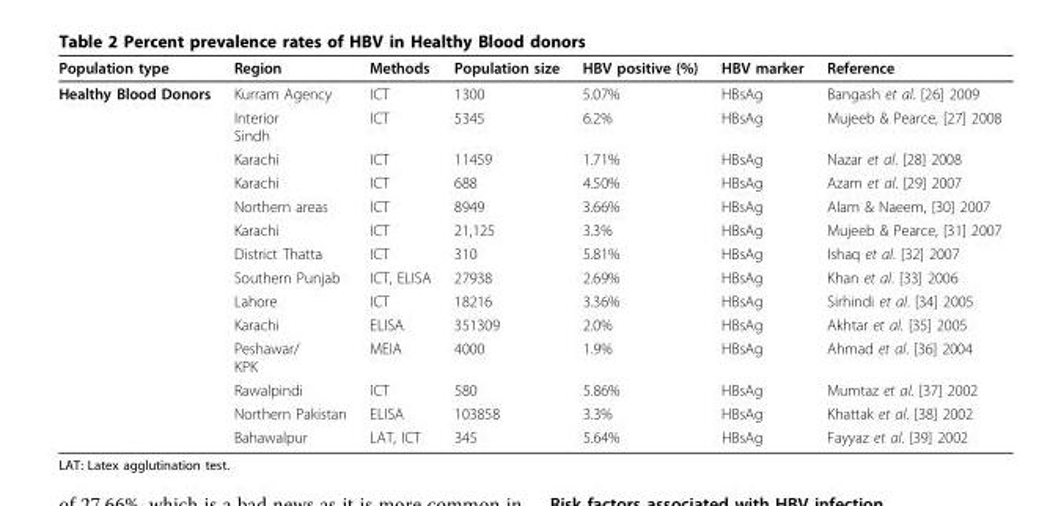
<table><thead><tr><td>Population type</td><td>Region</td><td>Methods</td><td>Population size</td><td>HBV positive (%)</td><td>HBV marker</td><td>Reference</td></tr></thead><tbody><tr><td rowspan="14">Healthy Blood Donors</td><td>Kurram Agency</td><td>ICT</td><td>1300</td><td>5.07%</td><td>HBsAg</td><td>Bangash et al. [26] 2009</td></tr><tr><td>Interior Sindh</td><td>ICT</td><td>5345</td><td>6.2%</td><td>HBsAg</td><td>Mujeeb &amp; Pearce, [27] 2008</td></tr><tr><td>Karachi</td><td>ICT</td><td>11459</td><td>1.71%</td><td>HBsAg</td><td>Nazar et al. [28] 2008</td></tr><tr><td>Karachi</td><td>ICT</td><td>688</td><td>4.50%</td><td>HBsAg</td><td>Azam et al. [29] 2007</td></tr><tr><td>Northern areas</td><td>ICT</td><td>8949</td><td>3.66%</td><td>HBsAg</td><td>Alam &amp; Naeem, [30] 2007</td></tr><tr><td>Karachi</td><td>ICT</td><td>21,125</td><td>3.3%</td><td>HBsAg</td><td>Mujeeb &amp; Pearce, [31] 2007</td></tr><tr><td>District Thatta</td><td>ICT</td><td>310</td><td>5.81%</td><td>HBsAg</td><td>Ishaq et al. [32] 2007</td></tr><tr><td>Southern Punjab</td><td>ICT, ELISA</td><td>27938</td><td>2.69%</td><td>HBsAg</td><td>Khan et al. [33] 2006</td></tr><tr><td>Lahore</td><td>ICT</td><td>18216</td><td>3.36%</td><td>HBsAg</td><td>Sirhindi et al. [34] 2005</td></tr><tr><td>Karachi</td><td>ELISA</td><td>351309</td><td>2.0%</td><td>HBsAg</td><td>Akhtar et al. [35] 2005</td></tr><tr><td>Peshawar/ KPK</td><td>MEIA</td><td>4000</td><td>1.9%</td><td>HBsAg</td><td>Ahmad et al. [36] 2004</td></tr><tr><td>Rawalpindi</td><td>ICT</td><td>580</td><td>5.86%</td><td>HBsAg</td><td>Mumtaz et al. [37] 2002</td></tr><tr><td>Northern Pakistan</td><td>ELISA</td><td>103858</td><td>3.3%</td><td>HBsAg</td><td>Khattak et al. [38] 2002</td></tr><tr><td>Bahawalpur</td><td>LAT, ICT</td><td>345</td><td>5.64%</td><td>HBsAg</td><td>Fayyaz et al. [39] 2002</td></tr></tbody></table>